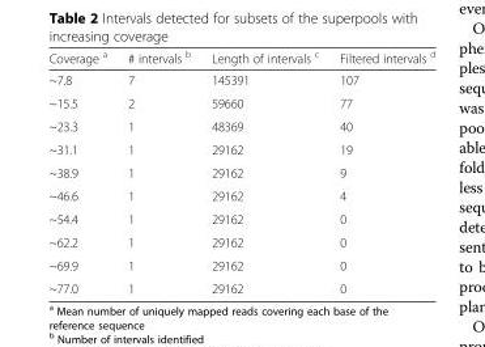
<table><thead><tr><td>Coverage <sup>a</sup></td><td># intervals <sup>b</sup></td><td>Length of intervals <sup>c</sup></td><td>Filtered intervals <sup>d</sup></td></tr></thead><tbody><tr><td>~7.8</td><td>7</td><td>145391</td><td>107</td></tr><tr><td>~15.5</td><td>2</td><td>59660</td><td>77</td></tr><tr><td>~23.3</td><td>1</td><td>48369</td><td>40</td></tr><tr><td>~31.1</td><td>1</td><td>29162</td><td>19</td></tr><tr><td>~38.9</td><td>1</td><td>29162</td><td>9</td></tr><tr><td>~46.6</td><td>1</td><td>29162</td><td>4</td></tr><tr><td>~54.4</td><td>1</td><td>29162</td><td>0</td></tr><tr><td>~62.2</td><td>1</td><td>29162</td><td>0</td></tr><tr><td>~69.9</td><td>1</td><td>29162</td><td>0</td></tr><tr><td>~77.0</td><td>1</td><td>29162</td><td>0</td></tr></tbody></table>